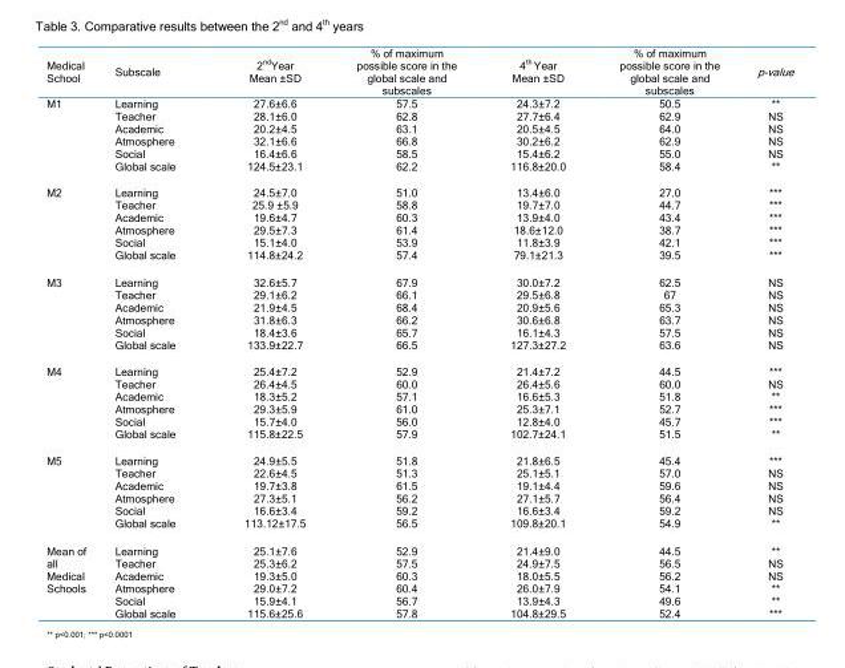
<table><thead><tr><td>Medical School</td><td>Subscale</td><td>2<sup>nd</sup>Year Mean ±SD</td><td>% of maximum possible score in the global scale and subscales</td><td>4<sup>th</sup> Year Mean ±SD</td><td>% of maximum possible score in the global scale and subscales</td><td>p-value</td></tr></thead><tbody><tr><td rowspan="6">M1</td><td>Learning</td><td>27.6±6.6</td><td>57.5</td><td>24.3±7.2</td><td>50.5</td><td>**</td></tr><tr><td>Teacher</td><td>28.1±6.0</td><td>62.8</td><td>27.7±6.4</td><td>62.9</td><td>NS</td></tr><tr><td>Academic</td><td>20.2±4.5</td><td>63.1</td><td>20.5±4.5</td><td>64.0</td><td>NS</td></tr><tr><td>Atmosphere</td><td>32.1±6.6</td><td>66.8</td><td>30.2±6.2</td><td>62.9</td><td>NS</td></tr><tr><td>Social</td><td>16.4±6.6</td><td>58.5</td><td>15.4±6.2</td><td>55.0</td><td>NS</td></tr><tr><td>Global scale</td><td>124.5±23.1</td><td>62.2</td><td>116.8±20.0</td><td>58.4</td><td>**</td></tr><tr><td rowspan="6">M2</td><td>Learning</td><td>24.5±7.0</td><td>51.0</td><td>13.4±6.0</td><td>27.0</td><td>***</td></tr><tr><td>Teacher</td><td>25.9 ±5.9</td><td>58.8</td><td>19.7±7.0</td><td>44.7</td><td>***</td></tr><tr><td>Academic</td><td>19.6±4.7</td><td>60.3</td><td>13.9±4.0</td><td>43.4</td><td>***</td></tr><tr><td>Atmosphere</td><td>29.5±7.3</td><td>61.4</td><td>18.6±12.0</td><td>38.7</td><td>***</td></tr><tr><td>Social</td><td>15.1±4.0</td><td>53.9</td><td>11.8±3.9</td><td>42.1</td><td>***</td></tr><tr><td>Global scale</td><td>114.8±24.2</td><td>57.4</td><td>79.1±21.3</td><td>39.5</td><td>***</td></tr><tr><td rowspan="6">M3</td><td>Learning</td><td>32.6±5.7</td><td>67.9</td><td>30.0±7.2</td><td>62.5</td><td>NS</td></tr><tr><td>Teacher</td><td>29.1±6.2</td><td>66.1</td><td>29.5±6.8</td><td>67</td><td>NS</td></tr><tr><td>Academic</td><td>21.9±4.5</td><td>68.4</td><td>20.9±5.6</td><td>65.3</td><td>NS</td></tr><tr><td>Atmosphere</td><td>31.8±6.3</td><td>66.2</td><td>30.6±6.8</td><td>63.7</td><td>NS</td></tr><tr><td>Social</td><td>18.4±3.6</td><td>65.7</td><td>16.1±4.3</td><td>57.5</td><td>NS</td></tr><tr><td>Global scale</td><td>133.9±22.7</td><td>66.5</td><td>127.3±27.2</td><td>63.6</td><td>NS</td></tr><tr><td rowspan="6">M4</td><td>Learning</td><td>25.4±7.2</td><td>52.9</td><td>21.4±7.2</td><td>44.5</td><td>***</td></tr><tr><td>Teacher</td><td>26.4±4.5</td><td>60.0</td><td>26.4±5.6</td><td>60.0</td><td>NS</td></tr><tr><td>Academic</td><td>18.3±5.2</td><td>57.1</td><td>16.6±5.3</td><td>51.8</td><td>**</td></tr><tr><td>Atmosphere</td><td>29.3±5.9</td><td>61.0</td><td>25.3±7.1</td><td>52.7</td><td>***</td></tr><tr><td>Social</td><td>15.7±4.0</td><td>56.0</td><td>12.8±4.0</td><td>45.7</td><td>***</td></tr><tr><td>Global scale</td><td>115.8±22.5</td><td>57.9</td><td>102.7±24.1</td><td>51.5</td><td>**</td></tr><tr><td rowspan="6">M5</td><td>Learning</td><td>24.9±5.5</td><td>51.8</td><td>21.8±6.5</td><td>45.4</td><td>***</td></tr><tr><td>Teacher</td><td>22.6±4.5</td><td>51.3</td><td>25.1±5.1</td><td>57.0</td><td>NS</td></tr><tr><td>Academic</td><td>19.7±3.8</td><td>61.5</td><td>19.1±4.4</td><td>59.6</td><td>NS</td></tr><tr><td>Atmosphere</td><td>27.3±5.1</td><td>56.2</td><td>27.1±5.7</td><td>56.4</td><td>NS</td></tr><tr><td>Social</td><td>16.6±3.4</td><td>59.2</td><td>16.6±3.4</td><td>59.2</td><td>NS</td></tr><tr><td>Global scale</td><td>113.12±17.5</td><td>56.5</td><td>109.8±20.1</td><td>54.9</td><td>**</td></tr><tr><td rowspan="6">Mean of all Medical Schools</td><td>Learning</td><td>25.1±7.6</td><td>52.9</td><td>21.4±9.0</td><td>44.5</td><td>**</td></tr><tr><td>Teacher</td><td>25.3±6.2</td><td>57.5</td><td>24.9±7.5</td><td>56.5</td><td>NS</td></tr><tr><td>Academic</td><td>19.3±5.0</td><td>60.3</td><td>18.0±5.5</td><td>56.2</td><td>NS</td></tr><tr><td>Atmosphere</td><td>29.0±7.2</td><td>60.4</td><td>26.0±7.9</td><td>54.1</td><td>**</td></tr><tr><td>Social</td><td>15.9±4.1</td><td>56.7</td><td>13.9±4.3</td><td>49.6</td><td>**</td></tr><tr><td>Global scale</td><td>115.6±25.6</td><td>57.8</td><td>104.8±29.5</td><td>52.4</td><td>***</td></tr></tbody></table>